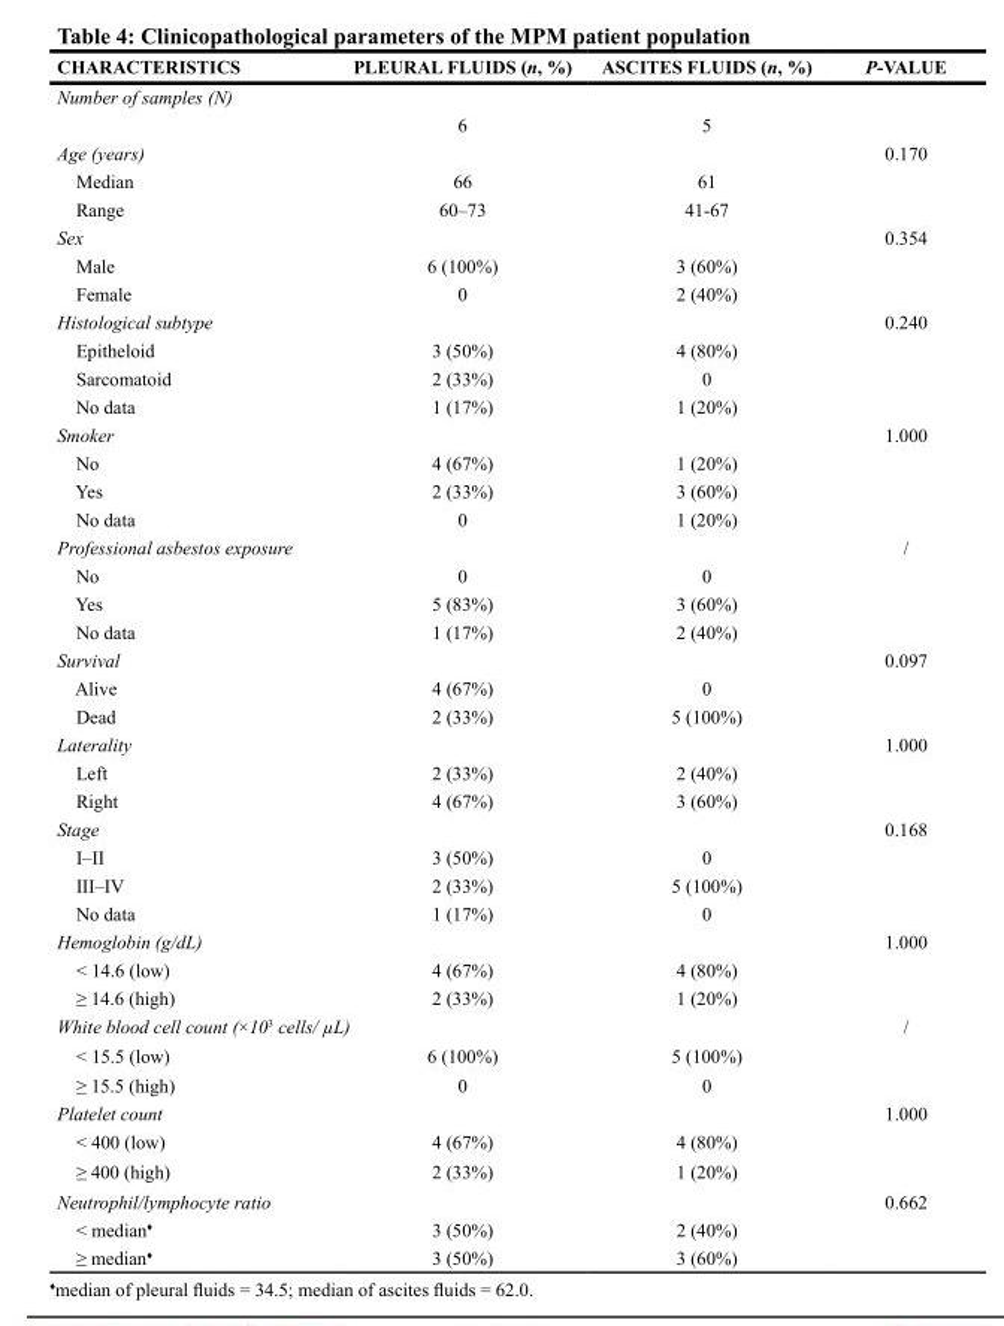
<table><thead><tr><td>CHARACTERISTICS</td><td>PLEURAL FLUIDS (n, %)</td><td>ASCITES FLUIDS (n, %)</td><td>P-VALUE</td></tr></thead><tbody><tr><td colspan="4">Number of samples (N)</td></tr><tr><td></td><td>6</td><td>5</td><td></td></tr><tr><td>Age (years)</td><td></td><td></td><td>0.170</td></tr><tr><td>Median</td><td>66</td><td>61</td><td></td></tr><tr><td>Range</td><td>60–73</td><td>41-67</td><td></td></tr><tr><td>Sex</td><td></td><td></td><td>0.354</td></tr><tr><td>Male</td><td>6 (100%)</td><td>3 (60%)</td><td></td></tr><tr><td>Female</td><td>0</td><td>2 (40%)</td><td></td></tr><tr><td>Histological subtype</td><td></td><td></td><td>0.240</td></tr><tr><td>Epitheloid</td><td>3 (50%)</td><td>4 (80%)</td><td></td></tr><tr><td>Sarcomatoid</td><td>2 (33%)</td><td>0</td><td></td></tr><tr><td>No data</td><td>1 (17%)</td><td>1 (20%)</td><td></td></tr><tr><td>Smoker</td><td></td><td></td><td>1.000</td></tr><tr><td>No</td><td>4 (67%)</td><td>1 (20%)</td><td></td></tr><tr><td>Yes</td><td>2 (33%)</td><td>3 (60%)</td><td></td></tr><tr><td>No data</td><td>0</td><td>1 (20%)</td><td></td></tr><tr><td>Professional asbestos exposure</td><td></td><td></td><td>/</td></tr><tr><td>No</td><td>0</td><td>0</td><td></td></tr><tr><td>Yes</td><td>5 (83%)</td><td>3 (60%)</td><td></td></tr><tr><td>No data</td><td>1 (17%)</td><td>2 (40%)</td><td></td></tr><tr><td>Survival</td><td></td><td></td><td>0.097</td></tr><tr><td>Alive</td><td>4 (67%)</td><td>0</td><td></td></tr><tr><td>Dead</td><td>2 (33%)</td><td>5 (100%)</td><td></td></tr><tr><td>Laterality</td><td></td><td></td><td>1.000</td></tr><tr><td>Left</td><td>2 (33%)</td><td>2 (40%)</td><td></td></tr><tr><td>Right</td><td>4 (67%)</td><td>3 (60%)</td><td></td></tr><tr><td>Stage</td><td></td><td></td><td>0.168</td></tr><tr><td>I–II</td><td>3 (50%)</td><td>0</td><td></td></tr><tr><td>III–IV</td><td>2 (33%)</td><td>5 (100%)</td><td></td></tr><tr><td>No data</td><td>1 (17%)</td><td>0</td><td></td></tr><tr><td>Hemoglobin (g/dL)</td><td></td><td></td><td>1.000</td></tr><tr><td>&lt; 14.6 (low)</td><td>4 (67%)</td><td>4 (80%)</td><td></td></tr><tr><td>≥ 14.6 (high)</td><td>2 (33%)</td><td>1 (20%)</td><td></td></tr><tr><td>White blood cell count (×10<sup>3</sup> cells/ µL)</td><td></td><td></td><td>/</td></tr><tr><td>&lt; 15.5 (low)</td><td>6 (100%)</td><td>5 (100%)</td><td></td></tr><tr><td>≥ 15.5 (high)</td><td>0</td><td>0</td><td></td></tr><tr><td>Platelet count</td><td></td><td></td><td>1.000</td></tr><tr><td>&lt; 400 (low)</td><td>4 (67%)</td><td>4 (80%)</td><td></td></tr><tr><td>≥ 400 (high)</td><td>2 (33%)</td><td>1 (20%)</td><td></td></tr><tr><td>Neutrophil/lymphocyte ratio</td><td></td><td></td><td>0.662</td></tr><tr><td>&lt; median<sup>♦</sup></td><td>3 (50%)</td><td>2 (40%)</td><td></td></tr><tr><td>≥ median<sup>♦</sup></td><td>3 (50%)</td><td>3 (60%)</td><td></td></tr></tbody></table>